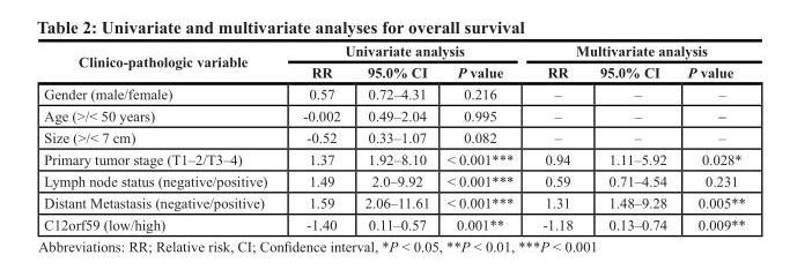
<table><thead><tr><td rowspan="2">Clinico-pathologic variable</td><td colspan="3">Univariate analysis</td><td colspan="3">Multivariate analysis</td></tr><tr><td>RR</td><td>95.0% CI</td><td>P value</td><td>RR</td><td>95.0% CI</td><td>P value</td></tr></thead><tbody><tr><td>Gender (male/female)</td><td>0.57</td><td>0.72–4.31</td><td>0.216</td><td>–</td><td>–</td><td>–</td></tr><tr><td>Age (&gt;/&lt; 50 years)</td><td>-0.002</td><td>0.49–2.04</td><td>0.995</td><td>–</td><td>–</td><td>–</td></tr><tr><td>Size (&gt;/&lt; 7 cm)</td><td>-0.52</td><td>0.33–1.07</td><td>0.082</td><td>–</td><td>–</td><td>–</td></tr><tr><td>Primary tumor stage (T1–2/T3–4)</td><td>1.37</td><td>1.92–8.10</td><td>&lt; 0.001***</td><td>0.94</td><td>1.11–5.92</td><td>0.028*</td></tr><tr><td>Lymph node status (negative/positive)</td><td>1.49</td><td>2.0–9.92</td><td>&lt; 0.001***</td><td>0.59</td><td>0.71–4.54</td><td>0.231</td></tr><tr><td>Distant Metastasis (negative/positive)</td><td>1.59</td><td>2.06–11.61</td><td>&lt; 0.001***</td><td>1.31</td><td>1.48–9.28</td><td>0.005**</td></tr><tr><td>C12orf59 (low/high)</td><td>-1.40</td><td>0.11–0.57</td><td>0.001**</td><td>-1.18</td><td>0.13–0.74</td><td>0.009**</td></tr></tbody></table>